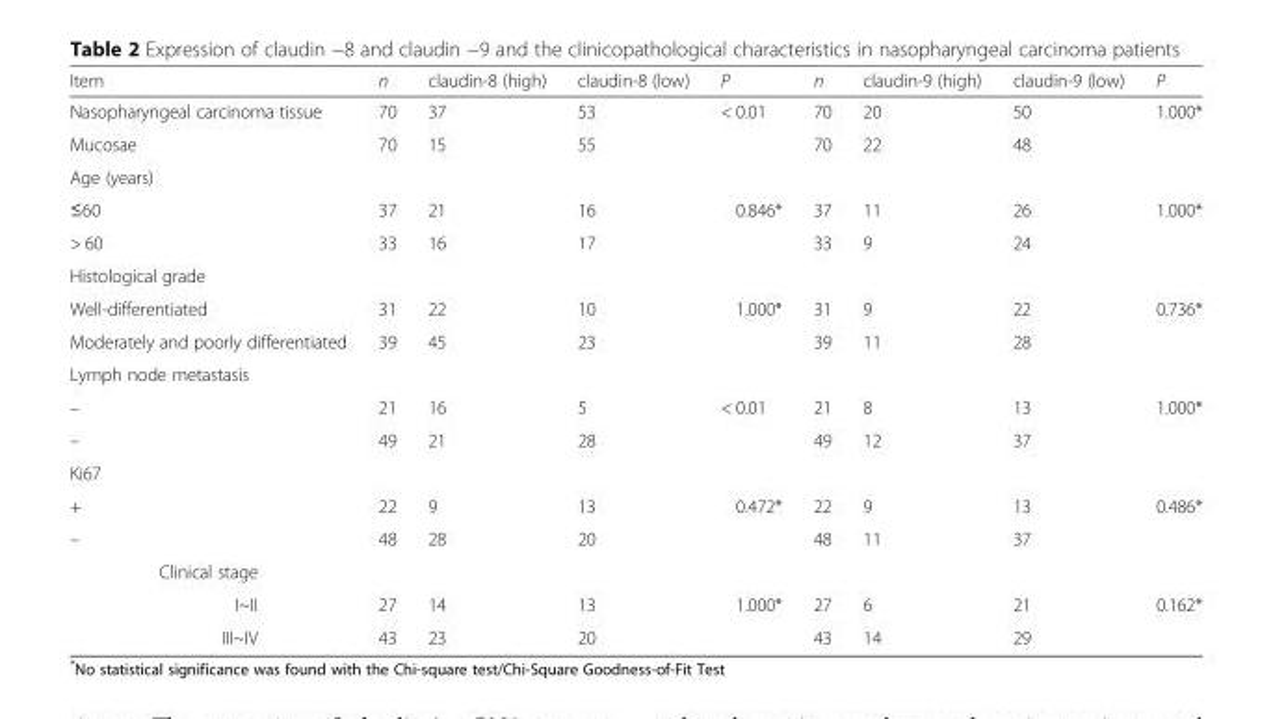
<table><thead><tr><td>Item</td><td>n</td><td>claudin-8 (high)</td><td>claudin-8 (low)</td><td>P</td><td>n</td><td>claudin-9 (high)</td><td>claudin-9 (low)</td><td>P</td></tr></thead><tbody><tr><td>Nasopharyngeal carcinoma tissue</td><td>70</td><td>37</td><td>53</td><td>&lt; 0.01</td><td>70</td><td>20</td><td>50</td><td>1.000*</td></tr><tr><td>Mucosae</td><td>70</td><td>15</td><td>55</td><td></td><td>70</td><td>22</td><td>48</td><td></td></tr><tr><td colspan="9">Age (years)</td></tr><tr><td>≤60</td><td>37</td><td>21</td><td>16</td><td>0.846*</td><td>37</td><td>11</td><td>26</td><td>1.000*</td></tr><tr><td>&gt; 60</td><td>33</td><td>16</td><td>17</td><td></td><td>33</td><td>9</td><td>24</td><td></td></tr><tr><td colspan="9">Histological grade</td></tr><tr><td>Well-differentiated</td><td>31</td><td>22</td><td>10</td><td>1.000*</td><td>31</td><td>9</td><td>22</td><td>0.736*</td></tr><tr><td>Moderately and poorly differentiated</td><td>39</td><td>45</td><td>23</td><td></td><td>39</td><td>11</td><td>28</td><td></td></tr><tr><td colspan="9">Lymph node metastasis</td></tr><tr><td>–</td><td>21</td><td>16</td><td>5</td><td>&lt; 0.01</td><td>21</td><td>8</td><td>13</td><td>1.000*</td></tr><tr><td>–</td><td>49</td><td>21</td><td>28</td><td></td><td>49</td><td>12</td><td>37</td><td></td></tr><tr><td colspan="9">Ki67</td></tr><tr><td>+</td><td>22</td><td>9</td><td>13</td><td>0.472*</td><td>22</td><td>9</td><td>13</td><td>0.486*</td></tr><tr><td>–</td><td>48</td><td>28</td><td>20</td><td></td><td>48</td><td>11</td><td>37</td><td></td></tr><tr><td colspan="9">Clinical stage</td></tr><tr><td>I~II</td><td>27</td><td>14</td><td>13</td><td>1.000*</td><td>27</td><td>6</td><td>21</td><td>0.162*</td></tr><tr><td>III~IV</td><td>43</td><td>23</td><td>20</td><td></td><td>43</td><td>14</td><td>29</td><td></td></tr></tbody></table>